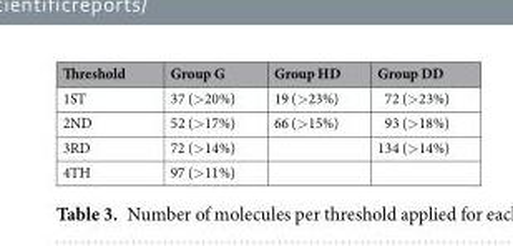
<table><thead><tr><td>Threshold</td><td>Group G</td><td>Group HD</td><td>Group DD</td></tr></thead><tbody><tr><td>1ST</td><td>37 (&gt;20%)</td><td>19 (&gt;23%)</td><td>72 (&gt;23%)</td></tr><tr><td>2ND</td><td>52 (&gt;17%)</td><td>66 (&gt;15%)</td><td>93 (&gt;18%)</td></tr><tr><td>3RD</td><td>72 (&gt;14%)</td><td></td><td>134 (&gt;14%)</td></tr><tr><td>4TH</td><td>97 (&gt;11%)</td><td></td><td></td></tr></tbody></table>